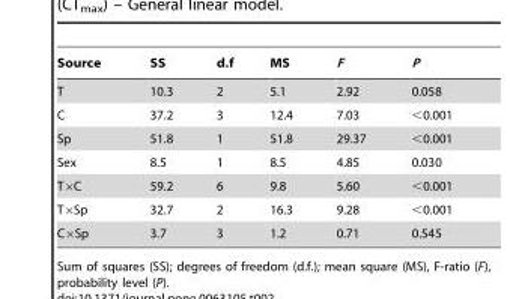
<table><thead><tr><td>Source</td><td>SS</td><td>d.f</td><td>MS</td><td>F</td><td>P</td></tr></thead><tbody><tr><td>T</td><td>10.3</td><td>2</td><td>5.1</td><td>2.92</td><td>0.058</td></tr><tr><td>C</td><td>37.2</td><td>3</td><td>12.4</td><td>7.03</td><td>&lt;0.001</td></tr><tr><td>Sp</td><td>51.8</td><td>1</td><td>51.8</td><td>29.37</td><td>&lt;0.001</td></tr><tr><td>Sex</td><td>8.5</td><td>1</td><td>8.5</td><td>4.85</td><td>0.030</td></tr><tr><td>T×C</td><td>59.2</td><td>6</td><td>9.8</td><td>5.60</td><td>&lt;0.001</td></tr><tr><td>T×Sp</td><td>32.7</td><td>2</td><td>16.3</td><td>9.28</td><td>&lt;0.001</td></tr><tr><td>C×Sp</td><td>3.7</td><td>3</td><td>1.2</td><td>0.71</td><td>0.545</td></tr></tbody></table>